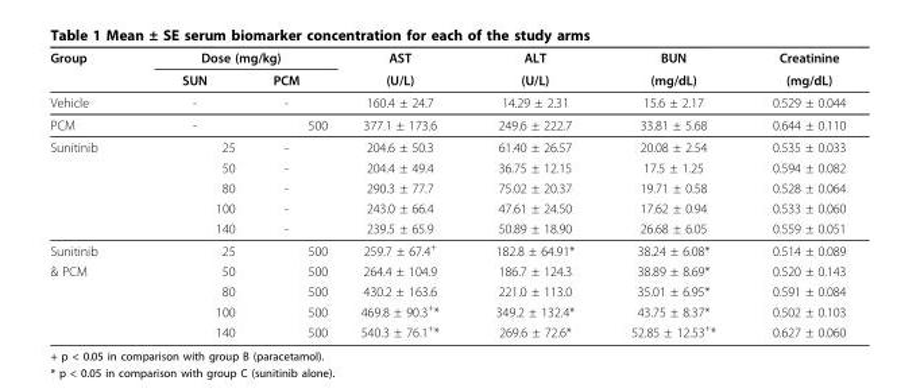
<table><thead><tr><td rowspan="2">Group</td><td colspan="2">Dose (mg/kg)</td><td rowspan="2">AST (U/L)</td><td rowspan="2">ALT (U/L)</td><td rowspan="2">BUN (mg/dL)</td><td rowspan="2">Creatinine (mg/dL)</td></tr><tr><td>SUN</td><td>PCM</td></tr></thead><tbody><tr><td>Vehicle</td><td>-</td><td>-</td><td>160.4 ± 24.7</td><td>14.29 ± 2.31</td><td>15.6 ± 2.17</td><td>0.529 ± 0.044</td></tr><tr><td>PCM</td><td>-</td><td>500</td><td>377.1 ± 173.6</td><td>249.6 ± 222.7</td><td>33.81 ± 5.68</td><td>0.644 ± 0.110</td></tr><tr><td rowspan="5">Sunitinib</td><td>25</td><td>-</td><td>204.6 ± 50.3</td><td>61.40 ± 26.57</td><td>20.08 ± 2.54</td><td>0.535 ± 0.033</td></tr><tr><td>50</td><td>-</td><td>204.4 ± 49.4</td><td>36.75 ± 12.15</td><td>17.5 ± 1.25</td><td>0.594 ± 0.082</td></tr><tr><td>80</td><td>-</td><td>290.3 ± 77.7</td><td>75.02 ± 20.37</td><td>19.71 ± 0.58</td><td>0.528 ± 0.064</td></tr><tr><td>100</td><td>-</td><td>243.0 ± 66.4</td><td>47.61 ± 24.50</td><td>17.62 ± 0.94</td><td>0.533 ± 0.060</td></tr><tr><td>140</td><td>-</td><td>239.5 ± 65.9</td><td>50.89 ± 18.90</td><td>26.68 ± 6.05</td><td>0.559 ± 0.051</td></tr><tr><td>Sunitinib</td><td>25</td><td>500</td><td>259.7 ± 67.4<sup>+</sup></td><td>182.8 ± 64.91*</td><td>38.24 ± 6.08*</td><td>0.514 ± 0.089</td></tr><tr><td rowspan="4">&amp; PCM</td><td>50</td><td>500</td><td>264.4 ± 104.9</td><td>186.7 ± 124.3</td><td>38.89 ± 8.69*</td><td>0.520 ± 0.143</td></tr><tr><td>80</td><td>500</td><td>430.2 ± 163.6</td><td>221.0 ± 113.0</td><td>35.01 ± 6.95*</td><td>0.591 ± 0.084</td></tr><tr><td>100</td><td>500</td><td>469.8 ± 90.3<sup>+</sup>*</td><td>349.2 ± 132.4*</td><td>43.75 ± 8.37*</td><td>0.502 ± 0.103</td></tr><tr><td>140</td><td>500</td><td>540.3 ± 76.1<sup>+</sup>*</td><td>269.6 ± 72.6*</td><td>52.85 ± 12.53<sup>+</sup>*</td><td>0.627 ± 0.060</td></tr></tbody></table>